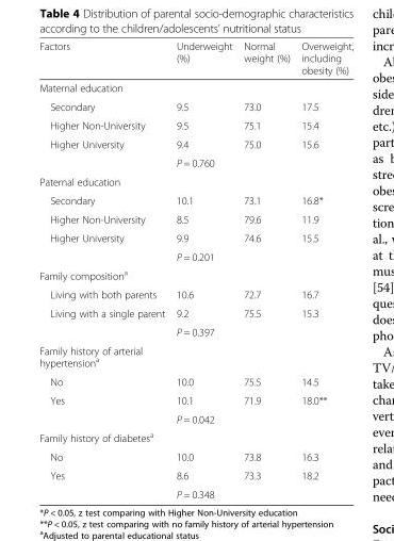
<table><thead><tr><td>Factors</td><td>Underweight (%)</td><td>Normal weight (%)</td><td>Overweight, including obesity (%)</td></tr></thead><tbody><tr><td colspan="4">Maternal education</td></tr><tr><td>Secondary</td><td>9.5</td><td>73.0</td><td>17.5</td></tr><tr><td>Higher Non-University</td><td>9.5</td><td>75.1</td><td>15.4</td></tr><tr><td rowspan="2">Higher University</td><td>9.4</td><td>75.0</td><td>15.6</td></tr><tr><td>P = 0.760</td><td></td><td></td></tr><tr><td colspan="4">Paternal education</td></tr><tr><td>Secondary</td><td>10.1</td><td>73.1</td><td>16.8*</td></tr><tr><td>Higher Non-University</td><td>8.5</td><td>79.6</td><td>11.9</td></tr><tr><td rowspan="2">Higher University</td><td>9.9</td><td>74.6</td><td>15.5</td></tr><tr><td>P = 0.201</td><td></td><td></td></tr><tr><td colspan="4">Family composition<sup>a</sup></td></tr><tr><td>Living with both parents</td><td>10.6</td><td>72.7</td><td>16.7</td></tr><tr><td rowspan="2">Living with a single parent</td><td>9.2</td><td>75.5</td><td>15.3</td></tr><tr><td>P = 0.397</td><td></td><td></td></tr><tr><td colspan="4">Family history of arterial hypertension<sup>a</sup></td></tr><tr><td>No</td><td>10.0</td><td>75.5</td><td>14.5</td></tr><tr><td rowspan="2">Yes</td><td>10.1</td><td>71.9</td><td>18.0**</td></tr><tr><td>P = 0.042</td><td></td><td></td></tr><tr><td colspan="4">Family history of diabetes<sup>a</sup></td></tr><tr><td>No</td><td>10.0</td><td>73.8</td><td>16.3</td></tr><tr><td rowspan="2">Yes</td><td>8.6</td><td>73.3</td><td>18.2</td></tr><tr><td>P = 0.348</td><td></td><td></td></tr></tbody></table>